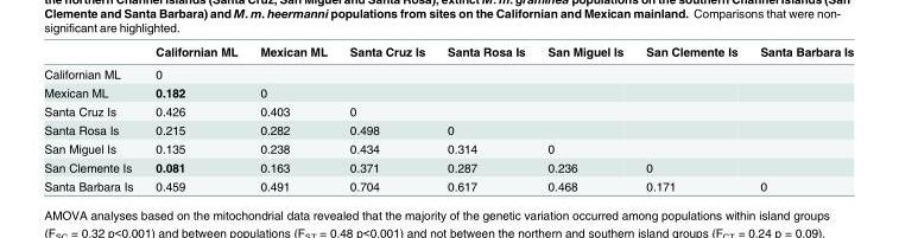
<table><thead><tr><td></td><td>Californian ML</td><td>Mexican ML</td><td>Santa Cruz Is</td><td>Santa Rosa Is</td><td>San Miguel Is</td><td>San Clemente Is</td><td>Santa Barbara Is</td></tr></thead><tbody><tr><td>Californian ML</td><td>0</td><td></td><td></td><td></td><td></td><td></td><td></td></tr><tr><td>Mexican ML</td><td>0.182</td><td>0</td><td></td><td></td><td></td><td></td><td></td></tr><tr><td>Santa Cruz Is</td><td>0.426</td><td>0.403</td><td>0</td><td></td><td></td><td></td><td></td></tr><tr><td>Santa Rosa Is</td><td>0.215</td><td>0.282</td><td>0.498</td><td>0</td><td></td><td></td><td></td></tr><tr><td>San Miguel Is</td><td>0.135</td><td>0.238</td><td>0.434</td><td>0.314</td><td>0</td><td></td><td></td></tr><tr><td>San Clemente Is</td><td>0.081</td><td>0.163</td><td>0.371</td><td>0.287</td><td>0.236</td><td>0</td><td></td></tr><tr><td>Santa Barbara Is</td><td>0.459</td><td>0.491</td><td>0.704</td><td>0.617</td><td>0.468</td><td>0.171</td><td>0</td></tr></tbody></table>